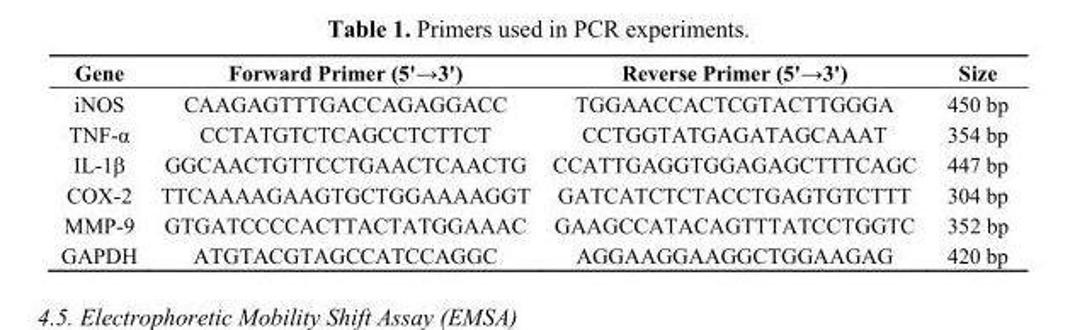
<table><thead><tr><td>Gene</td><td>Forward Primer (5&#x27;→3&#x27;)</td><td>Reverse Primer (5&#x27;→3&#x27;)</td><td>Size</td></tr></thead><tbody><tr><td>iNOS</td><td>CAAGAGTTTGACCAGAGGACC</td><td>TGGAACCACTCGTACTTGGGA</td><td>450 bp</td></tr><tr><td>TNF-α</td><td>CCTATGTCTCAGCCTCTTCT</td><td>CCTGGTATGAGATAGCAAAT</td><td>354 bp</td></tr><tr><td>IL-1β</td><td>GGCAACTGTTCCTGAACTCAACTG</td><td>CCATTGAGGTGGAGAGCTTTCAGC</td><td>447 bp</td></tr><tr><td>COX-2</td><td>TTCAAAAGAAGTGCTGGAAAAGGT</td><td>GATCATCTCTACCTGAGTGTCTTT</td><td>304 bp</td></tr><tr><td>MMP-9</td><td>GTGATCCCCACTTACTATGGAAAC</td><td>GAAGCCATACAGTTTATCCTGGTC</td><td>352 bp</td></tr><tr><td>GAPDH</td><td>ATGTACGTAGCCATCCAGGC</td><td>AGGAAGGAAGGCTGGAAGAG</td><td>420 bp</td></tr></tbody></table>